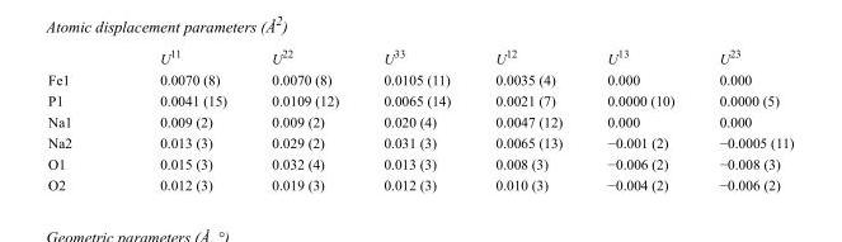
<table><thead><tr><td></td><td>U<sup>11</sup></td><td>U<sup>22</sup></td><td>U<sup>33</sup></td><td>U<sup>12</sup></td><td>U<sup>13</sup></td><td>U<sup>23</sup></td></tr></thead><tbody><tr><td>Fe1</td><td>0.0070 (8)</td><td>0.0070 (8)</td><td>0.0105 (11)</td><td>0.0035 (4)</td><td>0.000</td><td>0.000</td></tr><tr><td>P1</td><td>0.0041 (15)</td><td>0.0109 (12)</td><td>0.0065 (14)</td><td>0.0021 (7)</td><td>0.0000 (10)</td><td>0.0000 (5)</td></tr><tr><td>Na1</td><td>0.009 (2)</td><td>0.009 (2)</td><td>0.020 (4)</td><td>0.0047 (12)</td><td>0.000</td><td>0.000</td></tr><tr><td>Na2</td><td>0.013 (3)</td><td>0.029 (2)</td><td>0.031 (3)</td><td>0.0065 (13)</td><td>−0.001 (2)</td><td>−0.0005 (11)</td></tr><tr><td>O1</td><td>0.015 (3)</td><td>0.032 (4)</td><td>0.013 (3)</td><td>0.008 (3)</td><td>−0.006 (2)</td><td>−0.008 (3)</td></tr><tr><td>O2</td><td>0.012 (3)</td><td>0.019 (3)</td><td>0.012 (3)</td><td>0.010 (3)</td><td>−0.004 (2)</td><td>−0.006 (2)</td></tr></tbody></table>